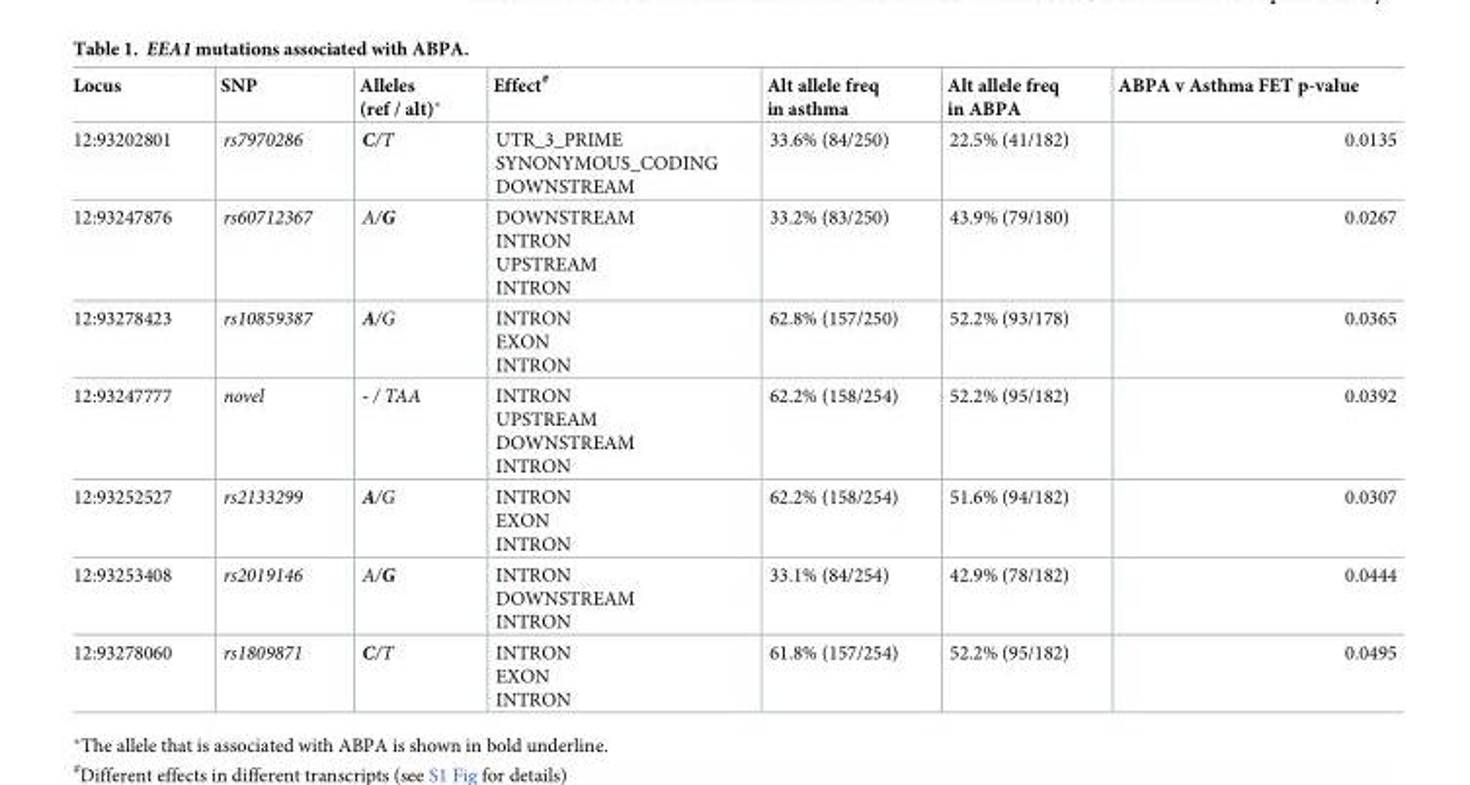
<table><thead><tr><td>Locus</td><td>SNP</td><td>Alleles (ref / alt)*</td><td>Effect<sup>#</sup></td><td>Alt allele freq in asthma</td><td>Alt allele freq in ABPA</td><td>ABPA v Asthma FET p-value</td></tr></thead><tbody><tr><td>12:93202801</td><td>rs7970286</td><td>C/T</td><td>UTR_3_PRIME SYNONYMOUS_CODING DOWNSTREAM</td><td>33.6% (84/250)</td><td>22.5% (41/182)</td><td>0.0135</td></tr><tr><td>12:93247876</td><td>rs60712367</td><td>A/G</td><td>DOWNSTREAM INTRON UPSTREAM INTRON</td><td>33.2% (83/250)</td><td>43.9% (79/180)</td><td>0.0267</td></tr><tr><td>12:93278423</td><td>rs10859387</td><td>A/G</td><td>INTRON EXON INTRON</td><td>62.8% (157/250)</td><td>52.2% (93/178)</td><td>0.0365</td></tr><tr><td>12:93247777</td><td>novel</td><td>- / TAA</td><td>INTRON UPSTREAM DOWNSTREAM INTRON</td><td>62.2% (158/254)</td><td>52.2% (95/182)</td><td>0.0392</td></tr><tr><td>12:93252527</td><td>rs2133299</td><td>A/G</td><td>INTRON EXON INTRON</td><td>62.2% (158/254)</td><td>51.6% (94/182)</td><td>0.0307</td></tr><tr><td>12:93253408</td><td>rs2019146</td><td>A/G</td><td>INTRON DOWNSTREAM INTRON</td><td>33.1% (84/254)</td><td>42.9% (78/182)</td><td>0.0444</td></tr><tr><td>12:93278060</td><td>rs1809871</td><td>C/T</td><td>INTRON EXON INTRON</td><td>61.8% (157/254)</td><td>52.2% (95/182)</td><td>0.0495</td></tr></tbody></table>